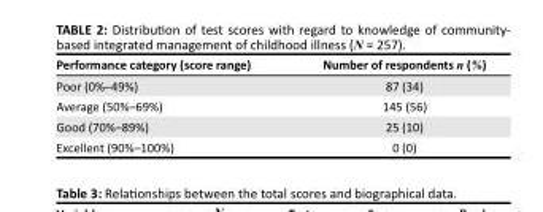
<table><thead><tr><td>Performance category (score range)</td><td>Number of respondents n (%)</td></tr></thead><tbody><tr><td>Poor (0%–49%)</td><td>87 (34)</td></tr><tr><td>Average (50%–69%)</td><td>145 (56)</td></tr><tr><td>Good (70%–89%)</td><td>25 (10)</td></tr><tr><td>Excellent (90%–100%)</td><td>0 (0)</td></tr></tbody></table>